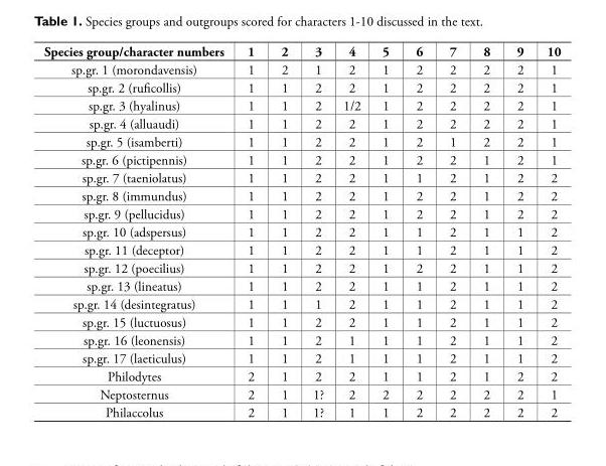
<table><thead><tr><td>Species group/character numbers</td><td>1</td><td>2</td><td>3</td><td>4</td><td>5</td><td>6</td><td>7</td><td>8</td><td>9</td><td>10</td></tr></thead><tbody><tr><td>sp.gr. 1 (morondavensis)</td><td>1</td><td>2</td><td>1</td><td>2</td><td>1</td><td>2</td><td>2</td><td>2</td><td>2</td><td>1</td></tr><tr><td>sp.gr. 2 (ruficollis)</td><td>1</td><td>1</td><td>2</td><td>2</td><td>1</td><td>2</td><td>2</td><td>2</td><td>2</td><td>1</td></tr><tr><td>sp.gr. 3 (hyalinus)</td><td>1</td><td>1</td><td>2</td><td>1/2</td><td>1</td><td>2</td><td>2</td><td>2</td><td>2</td><td>1</td></tr><tr><td>sp.gr. 4 (alluaudi)</td><td>1</td><td>1</td><td>2</td><td>2</td><td>1</td><td>2</td><td>2</td><td>2</td><td>2</td><td>1</td></tr><tr><td>sp.gr. 5 (isamberti)</td><td>1</td><td>1</td><td>2</td><td>2</td><td>1</td><td>2</td><td>1</td><td>2</td><td>2</td><td>1</td></tr><tr><td>sp.gr. 6 (pictipennis)</td><td>1</td><td>1</td><td>2</td><td>2</td><td>1</td><td>2</td><td>2</td><td>1</td><td>2</td><td>1</td></tr><tr><td>sp.gr. 7 (taeniolatus)</td><td>1</td><td>1</td><td>2</td><td>2</td><td>1</td><td>1</td><td>2</td><td>1</td><td>2</td><td>2</td></tr><tr><td>sp.gr. 8 (immundus)</td><td>1</td><td>1</td><td>2</td><td>2</td><td>1</td><td>2</td><td>2</td><td>1</td><td>2</td><td>2</td></tr><tr><td>sp.gr. 9 (pellucidus)</td><td>1</td><td>1</td><td>2</td><td>2</td><td>1</td><td>2</td><td>2</td><td>1</td><td>2</td><td>2</td></tr><tr><td>sp.gr. 10 (adspersus)</td><td>1</td><td>1</td><td>2</td><td>2</td><td>1</td><td>1</td><td>2</td><td>1</td><td>1</td><td>2</td></tr><tr><td>sp.gr. 11 (deceptor)</td><td>1</td><td>1</td><td>2</td><td>2</td><td>1</td><td>1</td><td>2</td><td>1</td><td>1</td><td>2</td></tr><tr><td>sp.gr. 12 (poecilius)</td><td>1</td><td>1</td><td>2</td><td>2</td><td>1</td><td>2</td><td>2</td><td>1</td><td>1</td><td>2</td></tr><tr><td>sp.gr. 13 (lineatus)</td><td>1</td><td>1</td><td>2</td><td>2</td><td>1</td><td>1</td><td>2</td><td>1</td><td>1</td><td>2</td></tr><tr><td>sp.gr. 14 (desintegratus)</td><td>1</td><td>1</td><td>1</td><td>2</td><td>1</td><td>1</td><td>2</td><td>1</td><td>1</td><td>2</td></tr><tr><td>sp.gr. 15 (luctuosus)</td><td>1</td><td>1</td><td>2</td><td>2</td><td>1</td><td>1</td><td>2</td><td>1</td><td>1</td><td>2</td></tr><tr><td>sp.gr. 16 (leonensis)</td><td>1</td><td>1</td><td>2</td><td>1</td><td>1</td><td>1</td><td>2</td><td>1</td><td>1</td><td>2</td></tr><tr><td>sp.gr. 17 (laeticulus)</td><td>1</td><td>1</td><td>2</td><td>1</td><td>1</td><td>1</td><td>2</td><td>1</td><td>1</td><td>2</td></tr><tr><td>Philodytes</td><td>2</td><td>1</td><td>2</td><td>2</td><td>1</td><td>1</td><td>2</td><td>1</td><td>2</td><td>2</td></tr><tr><td>Neptosternus</td><td>2</td><td>1</td><td>1?</td><td>2</td><td>2</td><td>2</td><td>2</td><td>2</td><td>2</td><td>1</td></tr><tr><td>Philaccolus</td><td>2</td><td>1</td><td>1?</td><td>1</td><td>1</td><td>2</td><td>2</td><td>2</td><td>2</td><td>2</td></tr></tbody></table>